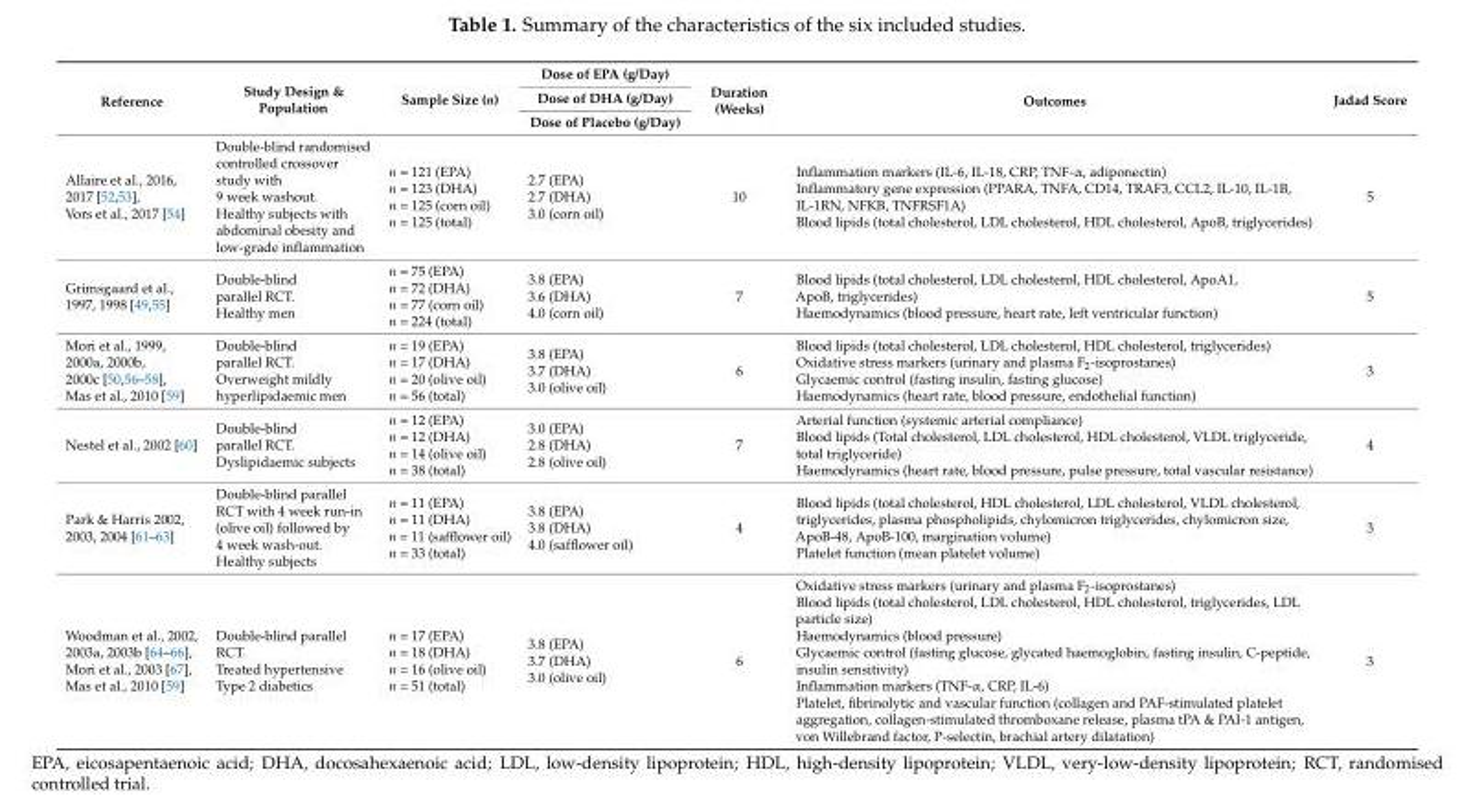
<table><thead><tr><td rowspan="3">Reference</td><td rowspan="3">Study Design &amp; Population</td><td rowspan="3">Sample Size (n)</td><td rowspan="3">Dose of EPA (g/Day) Dose of DHA (g/Day) Dose of Placebo (g/Day)</td><td rowspan="3">Duration (Weeks)</td><td rowspan="3">Outcomes</td><td rowspan="3">Jadad Score</td></tr><tr></tr><tr></tr></thead><tbody><tr><td>Allaire et al., 2016, 2017 [52,53], Vors et al., 2017 [54]</td><td>Double-blind randomised controlled crossover study with 9 week washout. Healthy subjects with abdominal obesity and low-grade inflammation</td><td>n = 121 (EPA) n = 123 (DHA) n = 125 (corn oil) n = 125 (total)</td><td>2.7 (EPA) 2.7 (DHA) 3.0 (corn oil)</td><td>10</td><td>Inflammation markers (IL-6, IL-18, CRP, TNF-α, adiponectin) Inflammatory gene expression (PPARA, TNFA, CD14, TRAF3, CCL2, IL-10, IL-1B, IL-1RN, NFKB, TNFRSF1A) Blood lipids (total cholesterol, LDL cholesterol, HDL cholesterol, ApoB, triglycerides)</td><td>5</td></tr><tr><td>Grimsgaard et al., 1997, 1998 [49,55]</td><td>Double-blind parallel RCT. Healthy men</td><td>n = 75 (EPA) n = 72 (DHA) n = 77 (corn oil) n = 224 (total)</td><td>3.8 (EPA) 3.6 (DHA) 4.0 (corn oil)</td><td>7</td><td>Blood lipids (total cholesterol, LDL cholesterol, HDL cholesterol, ApoA1, ApoB, triglycerides) Haemodynamics (blood pressure, heart rate, left ventricular function)</td><td>5</td></tr><tr><td>Mori et al., 1999, 2000a, 2000b, 2000c [50,56–58], Mas et al., 2010 [59]</td><td>Double-blind parallel RCT. Overweight mildly hyperlipidaemic men</td><td>n = 19 (EPA) n = 17 (DHA) n = 20 (olive oil) n = 56 (total)</td><td>3.8 (EPA) 3.7 (DHA) 3.0 (olive oil)</td><td>6</td><td>Blood lipids (total cholesterol, LDL cholesterol, HDL cholesterol, triglycerides) Oxidative stress markers (urinary and plasma F<sub>2</sub>-isoprostanes) Glycaemic control (fasting insulin, fasting glucose) Haemodynamics (heart rate, blood pressure, endothelial function)</td><td>3</td></tr><tr><td>Nestel et al., 2002 [60]</td><td>Double-blind parallel RCT. Dyslipidaemic subjects</td><td>n = 12 (EPA) n = 12 (DHA) n = 14 (olive oil) n = 38 (total)</td><td>3.0 (EPA) 2.8 (DHA) 2.8 (olive oil)</td><td>7</td><td>Arterial function (systemic arterial compliance) Blood lipids (Total cholesterol, LDL cholesterol, HDL cholesterol, VLDL triglyceride, total triglyceride) Haemodynamics (heart rate, blood pressure, pulse pressure, total vascular resistance)</td><td>4</td></tr><tr><td>Park &amp; Harris 2002, 2003, 2004 [61–63]</td><td>Double-blind parallel RCT with 4 week run-in (olive oil) followed by 4 week wash-out. Healthy subjects</td><td>n = 11 (EPA) n = 11 (DHA) n = 11 (safflower oil) n = 33 (total)</td><td>3.8 (EPA) 3.8 (DHA) 4.0 (safflower oil)</td><td>4</td><td>Blood lipids (total cholesterol, HDL cholesterol, LDL cholesterol, VLDL cholesterol, triglycerides, plasma phospholipids, chylomicron triglycerides, chylomicron size, ApoB-48, ApoB-100, margination volume) Platelet function (mean platelet volume)</td><td>3</td></tr><tr><td>Woodman et al., 2002, 2003a, 2003b [64–66], Mori et al., 2003 [67], Mas et al., 2010 [59]</td><td>Double-blind parallel RCT. Treated hypertensive Type 2 diabetics</td><td>n = 17 (EPA) n = 18 (DHA) n = 16 (olive oil) n = 51 (total)</td><td>3.8 (EPA) 3.7 (DHA) 3.0 (olive oil)</td><td>6</td><td>Oxidative stress markers (urinary and plasma F<sub>2</sub>-isoprostanes) Blood lipids (total cholesterol, LDL cholesterol, HDL cholesterol, triglycerides, LDL particle size) Haemodynamics (blood pressure) Glycaemic control (fasting glucose, glycated haemoglobin, fasting insulin, C-peptide, insulin sensitivity) Inflammation markers (TNF-α, CRP, IL-6) Platelet, fibrinolytic and vascular function (collagen and PAF-stimulated platelet aggregation, collagen-stimulated thromboxane release, plasma tPA &amp; PAI-1 antigen, von Willebrand factor, P-selectin, brachial artery dilatation)</td><td>3</td></tr></tbody></table>